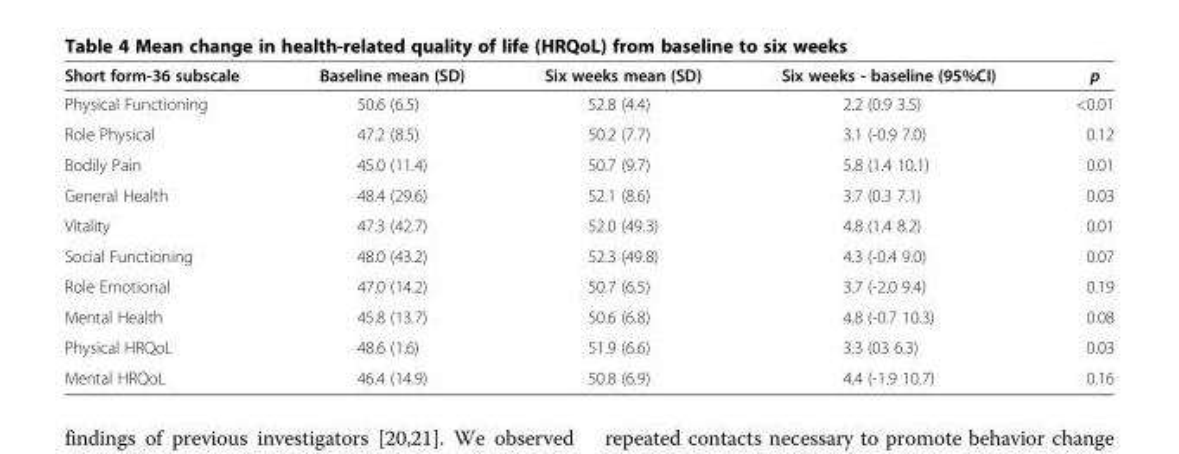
<table><thead><tr><td>Short form-36 subscale</td><td>Baseline mean (SD)</td><td>Six weeks mean (SD)</td><td>Six weeks - baseline (95%CI)</td><td>p</td></tr></thead><tbody><tr><td>Physical Functioning</td><td>50.6 (6.5)</td><td>52.8 (4.4)</td><td>2.2 (0.9 3.5)</td><td>&lt;0.01</td></tr><tr><td>Role Physical</td><td>47.2 (8.5)</td><td>50.2 (7.7)</td><td>3.1 (-0.9 7.0)</td><td>0.12</td></tr><tr><td>Bodily Pain</td><td>45.0 (11.4)</td><td>50.7 (9.7)</td><td>5.8 (1.4 10.1)</td><td>0.01</td></tr><tr><td>General Health</td><td>48.4 (29.6)</td><td>52.1 (8.6)</td><td>3.7 (0.3 7.1)</td><td>0.03</td></tr><tr><td>Vitality</td><td>47.3 (42.7)</td><td>52.0 (49.3)</td><td>4.8 (1.4 8.2)</td><td>0.01</td></tr><tr><td>Social Functioning</td><td>48.0 (43.2)</td><td>52.3 (49.8)</td><td>4.3 (-0.4 9.0)</td><td>0.07</td></tr><tr><td>Role Emotional</td><td>47.0 (14.2)</td><td>50.7 (6.5)</td><td>3.7 (-2.0 9.4)</td><td>0.19</td></tr><tr><td>Mental Health</td><td>45.8 (13.7)</td><td>50.6 (6.8)</td><td>4.8 (-0.7 10.3)</td><td>0.08</td></tr><tr><td>Physical HRQoL</td><td>48.6 (1.6)</td><td>51.9 (6.6)</td><td>3.3 (03 6.3)</td><td>0.03</td></tr><tr><td>Mental HRQoL</td><td>46.4 (14.9)</td><td>50.8 (6.9)</td><td>4.4 (-1.9 10.7)</td><td>0.16</td></tr></tbody></table>